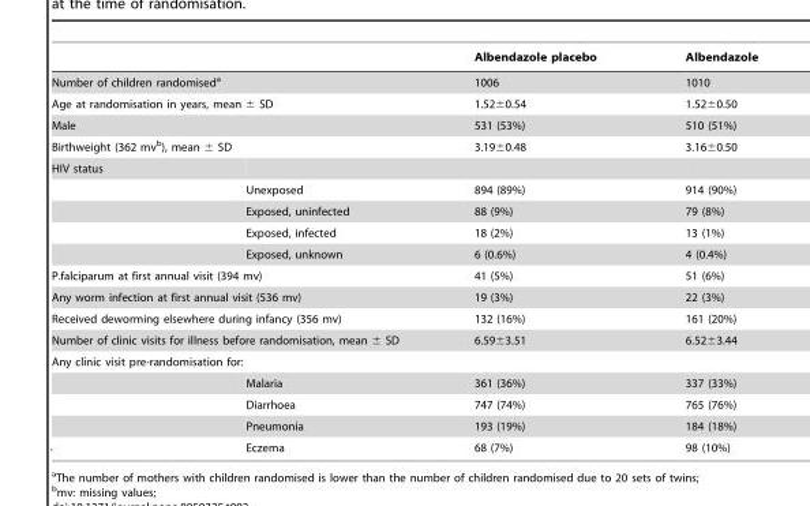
<table><thead><tr><td></td><td></td><td>Albendazole placebo</td><td>Albendazole</td></tr></thead><tbody><tr><td colspan="2">Number of children randomised<sup>a</sup></td><td>1006</td><td>1010</td></tr><tr><td colspan="2">Age at randomisation in years, mean ± SD</td><td>1.52±0.54</td><td>1.52±0.50</td></tr><tr><td colspan="2">Male</td><td>531 (53%)</td><td>510 (51%)</td></tr><tr><td colspan="2">Birthweight (362 mv<sup>b</sup>), mean ± SD</td><td>3.19±0.48</td><td>3.16±0.50</td></tr><tr><td colspan="4">HIV status</td></tr><tr><td></td><td>Unexposed</td><td>894 (89%)</td><td>914 (90%)</td></tr><tr><td></td><td>Exposed, uninfected</td><td>88 (9%)</td><td>79 (8%)</td></tr><tr><td></td><td>Exposed, infected</td><td>18 (2%)</td><td>13 (1%)</td></tr><tr><td></td><td>Exposed, unknown</td><td>6 (0.6%)</td><td>4 (0.4%)</td></tr><tr><td colspan="2">P.falciparum at first annual visit (394 mv)</td><td>41 (5%)</td><td>51 (6%)</td></tr><tr><td colspan="2">Any worm infection at first annual visit (536 mv)</td><td>19 (3%)</td><td>22 (3%)</td></tr><tr><td colspan="2">Received deworming elsewhere during infancy (356 mv)</td><td>132 (16%)</td><td>161 (20%)</td></tr><tr><td colspan="2">Number of clinic visits for illness before randomisation, mean ± SD</td><td>6.59±3.51</td><td>6.52±3.44</td></tr><tr><td colspan="4">Any clinic visit pre-randomisation for:</td></tr><tr><td></td><td>Malaria</td><td>361 (36%)</td><td>337 (33%)</td></tr><tr><td></td><td>Diarrhoea</td><td>747 (74%)</td><td>765 (76%)</td></tr><tr><td></td><td>Pneumonia</td><td>193 (19%)</td><td>184 (18%)</td></tr><tr><td></td><td>Eczema</td><td>68 (7%)</td><td>98 (10%)</td></tr></tbody></table>